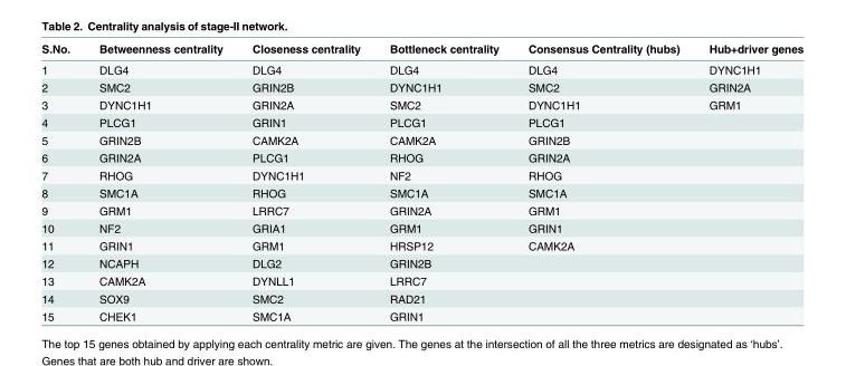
<table><thead><tr><td>S.No.</td><td>Betweenness centrality</td><td>Closeness centrality</td><td>Bottleneck centrality</td><td>Consensus Centrality (hubs)</td><td>Hub+driver genes</td></tr></thead><tbody><tr><td>1</td><td>DLG4</td><td>DLG4</td><td>DLG4</td><td>DLG4</td><td>DYNC1H1</td></tr><tr><td>2</td><td>SMC2</td><td>GRIN2B</td><td>DYNC1H1</td><td>SMC2</td><td>GRIN2A</td></tr><tr><td>3</td><td>DYNC1H1</td><td>GRIN2A</td><td>SMC2</td><td>DYNC1H1</td><td>GRM1</td></tr><tr><td>4</td><td>PLCG1</td><td>GRIN1</td><td>PLCG1</td><td>PLCG1</td><td></td></tr><tr><td>5</td><td>GRIN2B</td><td>CAMK2A</td><td>CAMK2A</td><td>GRIN2B</td><td></td></tr><tr><td>6</td><td>GRIN2A</td><td>PLCG1</td><td>RHOG</td><td>GRIN2A</td><td></td></tr><tr><td>7</td><td>RHOG</td><td>DYNC1H1</td><td>NF2</td><td>RHOG</td><td></td></tr><tr><td>8</td><td>SMC1A</td><td>RHOG</td><td>SMC1A</td><td>SMC1A</td><td></td></tr><tr><td>9</td><td>GRM1</td><td>LRRC7</td><td>GRIN2A</td><td>GRM1</td><td></td></tr><tr><td>10</td><td>NF2</td><td>GRIA1</td><td>GRM1</td><td>GRIN1</td><td></td></tr><tr><td>11</td><td>GRIN1</td><td>GRM1</td><td>HRSP12</td><td>CAMK2A</td><td></td></tr><tr><td>12</td><td>NCAPH</td><td>DLG2</td><td>GRIN2B</td><td></td><td></td></tr><tr><td>13</td><td>CAMK2A</td><td>DYNLL1</td><td>LRRC7</td><td></td><td></td></tr><tr><td>14</td><td>SOX9</td><td>SMC2</td><td>RAD21</td><td></td><td></td></tr><tr><td>15</td><td>CHEK1</td><td>SMC1A</td><td>GRIN1</td><td></td><td></td></tr></tbody></table>